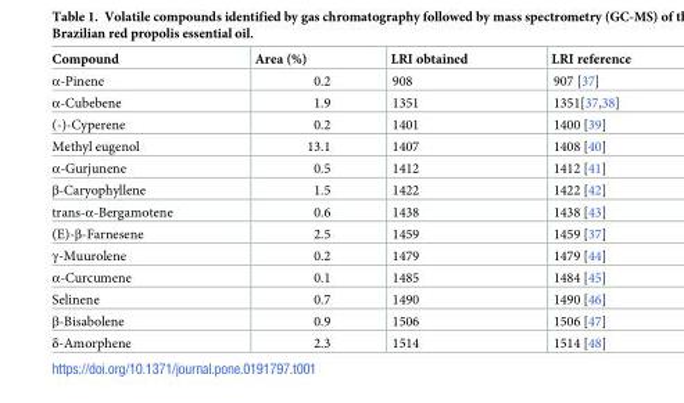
<table><thead><tr><td>Compound</td><td>Area (%)</td><td>LRI obtained</td><td>LRI reference</td></tr></thead><tbody><tr><td>α-Pinene</td><td>0.2</td><td>908</td><td>907 [37]</td></tr><tr><td>α-Cubebene</td><td>1.9</td><td>1351</td><td>1351[37,38]</td></tr><tr><td>(-)-Cyperene</td><td>0.2</td><td>1401</td><td>1400 [39]</td></tr><tr><td>Methyl eugenol</td><td>13.1</td><td>1407</td><td>1408 [40]</td></tr><tr><td>α-Gurjunene</td><td>0.5</td><td>1412</td><td>1412 [41]</td></tr><tr><td>β-Caryophyllene</td><td>1.5</td><td>1422</td><td>1422 [42]</td></tr><tr><td>trans-α-Bergamotene</td><td>0.6</td><td>1438</td><td>1438 [43]</td></tr><tr><td>(E)-β-Farnesene</td><td>2.5</td><td>1459</td><td>1459 [37]</td></tr><tr><td>γ-Muurolene</td><td>0.2</td><td>1479</td><td>1479 [44]</td></tr><tr><td>α-Curcumene</td><td>0.1</td><td>1485</td><td>1484 [45]</td></tr><tr><td>Selinene</td><td>0.7</td><td>1490</td><td>1490 [46]</td></tr><tr><td>β-Bisabolene</td><td>0.9</td><td>1506</td><td>1506 [47]</td></tr><tr><td>δ-Amorphene</td><td>2.3</td><td>1514</td><td>1514 [48]</td></tr></tbody></table>